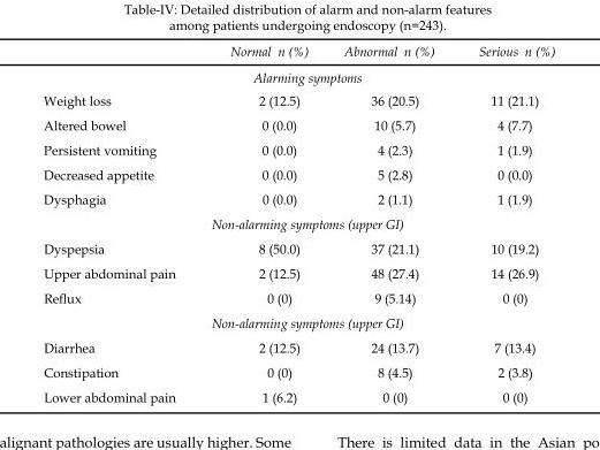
<table><thead><tr><td></td><td>Normal n (%)</td><td>Abnormal n (%)</td><td>Serious n (%)</td></tr></thead><tbody><tr><td colspan="4">Alarming symptoms</td></tr><tr><td>Weight loss</td><td>2 (12.5)</td><td>36 (20.5)</td><td>11 (21.1)</td></tr><tr><td>Altered bowel</td><td>0 (0.0)</td><td>10 (5.7)</td><td>4 (7.7)</td></tr><tr><td>Persistent vomiting</td><td>0 (0.0)</td><td>4 (2.3)</td><td>1 (1.9)</td></tr><tr><td>Decreased appetite</td><td>0 (0.0)</td><td>5 (2.8)</td><td>0 (0.0)</td></tr><tr><td>Dysphagia</td><td>0 (0.0)</td><td>2 (1.1)</td><td>1 (1.9)</td></tr><tr><td colspan="4">Non-alarming symptoms (upper GI)</td></tr><tr><td>Dyspepsia</td><td>8 (50.0)</td><td>37 (21.1)</td><td>10 (19.2)</td></tr><tr><td>Upper abdominal pain</td><td>2 (12.5)</td><td>48 (27.4)</td><td>14 (26.9)</td></tr><tr><td>Reflux</td><td>0 (0)</td><td>9 (5.14)</td><td>0 (0)</td></tr><tr><td colspan="4">Non-alarming symptoms (upper GI)</td></tr><tr><td>Diarrhea</td><td>2 (12.5)</td><td>24 (13.7)</td><td>7 (13.4)</td></tr><tr><td>Constipation</td><td>0 (0)</td><td>8 (4.5)</td><td>2 (3.8)</td></tr><tr><td>Lower abdominal pain</td><td>1 (6.2)</td><td>0 (0)</td><td>0 (0)</td></tr></tbody></table>